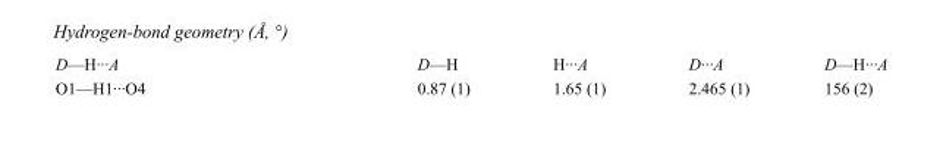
<table><tbody><tr><td>D—H···A</td><td>D—H</td><td>H···A</td><td>D···A</td><td>D—H···A</td></tr><tr><td>O1—H1···O4</td><td>0.87 (1)</td><td>1.65 (1)</td><td>2.465 (1)</td><td>156 (2)</td></tr></tbody></table>